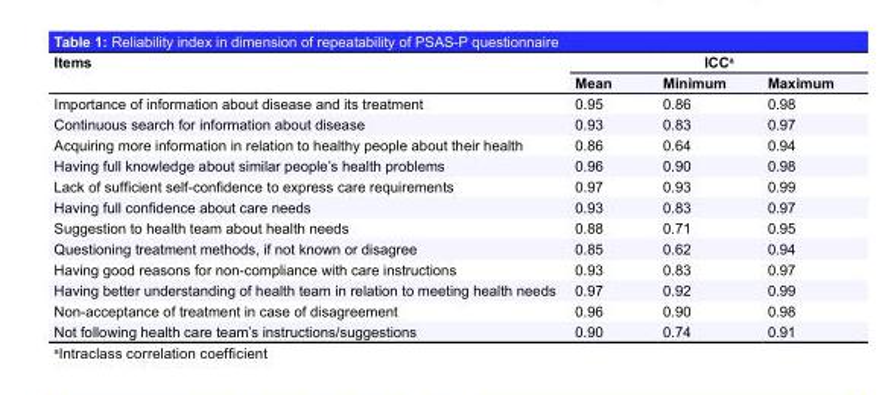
<table><thead><tr><td rowspan="2">Items</td><td colspan="3">ICC<sup>a</sup></td></tr><tr><td>Mean</td><td>Minimum</td><td>Maximum</td></tr></thead><tbody><tr><td>Importance of information about disease and its treatment</td><td>0.95</td><td>0.86</td><td>0.98</td></tr><tr><td>Continuous search for information about disease</td><td>0.93</td><td>0.83</td><td>0.97</td></tr><tr><td>Acquiring more information in relation to healthy people about their health</td><td>0.86</td><td>0.64</td><td>0.94</td></tr><tr><td>Having full knowledge about similar people’s health problems</td><td>0.96</td><td>0.90</td><td>0.98</td></tr><tr><td>Lack of sufficient self-confidence to express care requirements</td><td>0.97</td><td>0.93</td><td>0.99</td></tr><tr><td>Having full confidence about care needs</td><td>0.93</td><td>0.83</td><td>0.97</td></tr><tr><td>Suggestion to health team about health needs</td><td>0.88</td><td>0.71</td><td>0.95</td></tr><tr><td>Questioning treatment methods, if not known or disagree</td><td>0.85</td><td>0.62</td><td>0.94</td></tr><tr><td>Having good reasons for non-compliance with care instructions</td><td>0.93</td><td>0.83</td><td>0.97</td></tr><tr><td>Having better understanding of health team in relation to meeting health needs</td><td>0.97</td><td>0.92</td><td>0.99</td></tr><tr><td>Non-acceptance of treatment in case of disagreement</td><td>0.96</td><td>0.90</td><td>0.98</td></tr><tr><td>Not following health care team’s instructions/suggestions</td><td>0.90</td><td>0.74</td><td>0.91</td></tr></tbody></table>